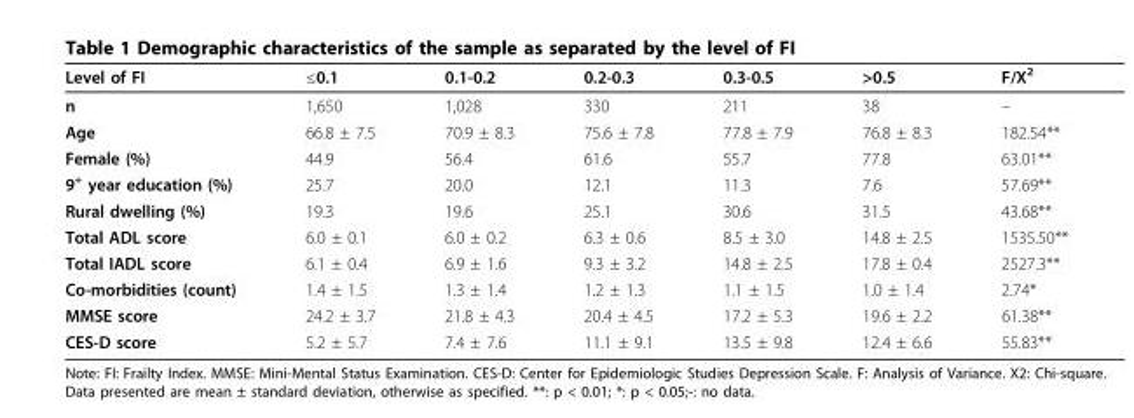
<table><thead><tr><td>Level of FI</td><td>≤0.1</td><td>0.1-0.2</td><td>0.2-0.3</td><td>0.3-0.5</td><td>&gt;0.5</td><td>F/X<sup>2</sup></td></tr></thead><tbody><tr><td>n</td><td>1,650</td><td>1,028</td><td>330</td><td>211</td><td>38</td><td>–</td></tr><tr><td>Age</td><td>66.8 ± 7.5</td><td>70.9 ± 8.3</td><td>75.6 ± 7.8</td><td>77.8 ± 7.9</td><td>76.8 ± 8.3</td><td>182.54**</td></tr><tr><td>Female (%)</td><td>44.9</td><td>56.4</td><td>61.6</td><td>55.7</td><td>77.8</td><td>63.01**</td></tr><tr><td>9<sup>+</sup> year education (%)</td><td>25.7</td><td>20.0</td><td>12.1</td><td>11.3</td><td>7.6</td><td>57.69**</td></tr><tr><td>Rural dwelling (%)</td><td>19.3</td><td>19.6</td><td>25.1</td><td>30.6</td><td>31.5</td><td>43.68**</td></tr><tr><td>Total ADL score</td><td>6.0 ± 0.1</td><td>6.0 ± 0.2</td><td>6.3 ± 0.6</td><td>8.5 ± 3.0</td><td>14.8 ± 2.5</td><td>1535.50**</td></tr><tr><td>Total IADL score</td><td>6.1 ± 0.4</td><td>6.9 ± 1.6</td><td>9.3 ± 3.2</td><td>14.8 ± 2.5</td><td>17.8 ± 0.4</td><td>2527.3**</td></tr><tr><td>Co-morbidities (count)</td><td>1.4 ± 1.5</td><td>1.3 ± 1.4</td><td>1.2 ± 1.3</td><td>1.1 ± 1.5</td><td>1.0 ± 1.4</td><td>2.74*</td></tr><tr><td>MMSE score</td><td>24.2 ± 3.7</td><td>21.8 ± 4.3</td><td>20.4 ± 4.5</td><td>17.2 ± 5.3</td><td>19.6 ± 2.2</td><td>61.38**</td></tr><tr><td>CES-D score</td><td>5.2 ± 5.7</td><td>7.4 ± 7.6</td><td>11.1 ± 9.1</td><td>13.5 ± 9.8</td><td>12.4 ± 6.6</td><td>55.83**</td></tr></tbody></table>